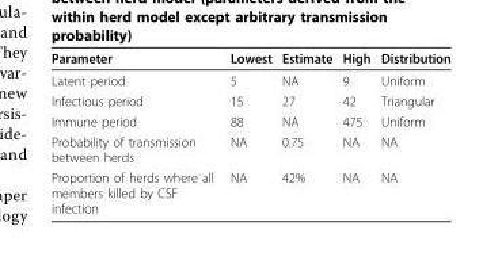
<table><thead><tr><td>Parameter</td><td>Lowest</td><td>Estimate</td><td>High</td><td>Distribution</td></tr></thead><tbody><tr><td>Latent period</td><td>5</td><td>NA</td><td>9</td><td>Uniform</td></tr><tr><td>Infectious period</td><td>15</td><td>27</td><td>42</td><td>Triangular</td></tr><tr><td>Immune period</td><td>88</td><td>NA</td><td>475</td><td>Uniform</td></tr><tr><td>Probability of transmission between herds</td><td>NA</td><td>0.75</td><td>NA</td><td>NA</td></tr><tr><td>Proportion of herds where all members killed by CSF infection</td><td>NA</td><td>42%</td><td>NA</td><td>NA</td></tr></tbody></table>